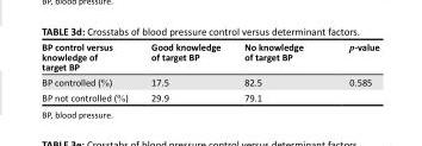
<table><thead><tr><td>BP control versus knowledge of target BP</td><td>Good knowledge of target BP</td><td>No knowledge of target BP</td><td>p-value</td></tr></thead><tbody><tr><td>BP controlled (%)</td><td>17.5</td><td>82.5</td><td>0.585</td></tr><tr><td>BP not controlled (%)</td><td>29.9</td><td>79.1</td><td></td></tr></tbody></table>